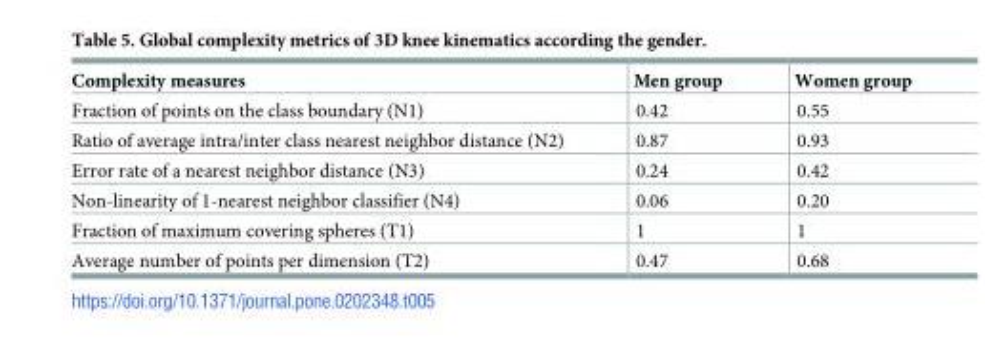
<table><thead><tr><td>Complexity measures</td><td>Men group</td><td>Women group</td></tr></thead><tbody><tr><td>Fraction of points on the class boundary (N1)</td><td>0.42</td><td>0.55</td></tr><tr><td>Ratio of average intra/inter class nearest neighbor distance (N2)</td><td>0.87</td><td>0.93</td></tr><tr><td>Error rate of a nearest neighbor distance (N3)</td><td>0.24</td><td>0.42</td></tr><tr><td>Non-linearity of 1-nearest neighbor classifier (N4)</td><td>0.06</td><td>0.20</td></tr><tr><td>Fraction of maximum covering spheres (T1)</td><td>1</td><td>1</td></tr><tr><td>Average number of points per dimension (T2)</td><td>0.47</td><td>0.68</td></tr></tbody></table>